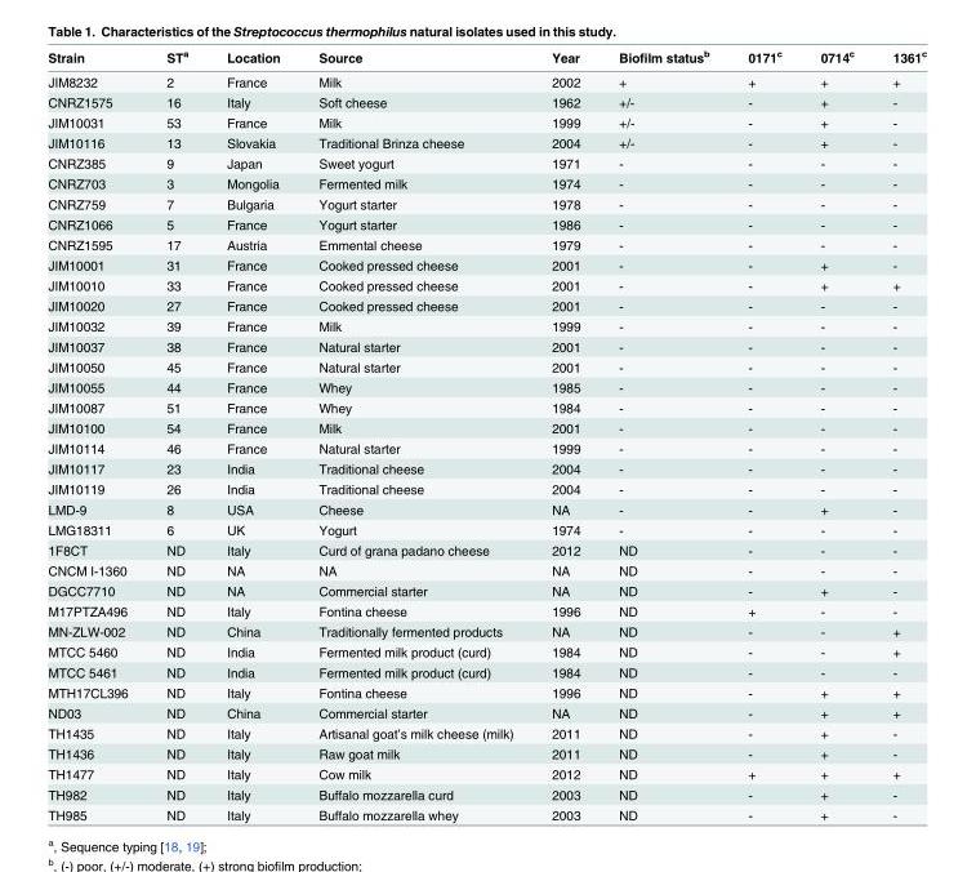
<table><thead><tr><td>Strain</td><td>ST<sup>a</sup></td><td>Location</td><td>Source</td><td>Year</td><td>Biofilm status<sup>b</sup></td><td>0171<sup>c</sup></td><td>0714<sup>c</sup></td><td>1361<sup>c</sup></td></tr></thead><tbody><tr><td>JIM8232</td><td>2</td><td>France</td><td>Milk</td><td>2002</td><td>+</td><td>+</td><td>+</td><td>+</td></tr><tr><td>CNRZ1575</td><td>16</td><td>Italy</td><td>Soft cheese</td><td>1962</td><td>+/-</td><td>-</td><td>+</td><td>-</td></tr><tr><td>JIM10031</td><td>53</td><td>France</td><td>Milk</td><td>1999</td><td>+/-</td><td>-</td><td>+</td><td>-</td></tr><tr><td>JIM10116</td><td>13</td><td>Slovakia</td><td>Traditional Brinza cheese</td><td>2004</td><td>+/-</td><td>-</td><td>+</td><td>-</td></tr><tr><td>CNRZ385</td><td>9</td><td>Japan</td><td>Sweet yogurt</td><td>1971</td><td>-</td><td>-</td><td>-</td><td>-</td></tr><tr><td>CNRZ703</td><td>3</td><td>Mongolia</td><td>Fermented milk</td><td>1974</td><td>-</td><td>-</td><td>-</td><td>-</td></tr><tr><td>CNRZ759</td><td>7</td><td>Bulgaria</td><td>Yogurt starter</td><td>1978</td><td>-</td><td>-</td><td>-</td><td>-</td></tr><tr><td>CNRZ1066</td><td>5</td><td>France</td><td>Yogurt starter</td><td>1986</td><td>-</td><td>-</td><td>-</td><td>-</td></tr><tr><td>CNRZ1595</td><td>17</td><td>Austria</td><td>Emmental cheese</td><td>1979</td><td>-</td><td>-</td><td>-</td><td>-</td></tr><tr><td>JIM10001</td><td>31</td><td>France</td><td>Cooked pressed cheese</td><td>2001</td><td>-</td><td>-</td><td>+</td><td>-</td></tr><tr><td>JIM10010</td><td>33</td><td>France</td><td>Cooked pressed cheese</td><td>2001</td><td>-</td><td>-</td><td>+</td><td>+</td></tr><tr><td>JIM10020</td><td>27</td><td>France</td><td>Cooked pressed cheese</td><td>2001</td><td>-</td><td>-</td><td>-</td><td>-</td></tr><tr><td>JIM10032</td><td>39</td><td>France</td><td>Milk</td><td>1999</td><td>-</td><td>-</td><td>-</td><td>-</td></tr><tr><td>JIM10037</td><td>38</td><td>France</td><td>Natural starter</td><td>2001</td><td>-</td><td>-</td><td>-</td><td>-</td></tr><tr><td>JIM10050</td><td>45</td><td>France</td><td>Natural starter</td><td>2001</td><td>-</td><td>-</td><td>-</td><td>-</td></tr><tr><td>JIM10055</td><td>44</td><td>France</td><td>Whey</td><td>1985</td><td>-</td><td>-</td><td>-</td><td>-</td></tr><tr><td>JIM10087</td><td>51</td><td>France</td><td>Whey</td><td>1984</td><td>-</td><td>-</td><td>-</td><td>-</td></tr><tr><td>JIM10100</td><td>54</td><td>France</td><td>Milk</td><td>2001</td><td>-</td><td>-</td><td>-</td><td>-</td></tr><tr><td>JIM10114</td><td>46</td><td>France</td><td>Natural starter</td><td>1999</td><td>-</td><td>-</td><td>-</td><td>-</td></tr><tr><td>JIM10117</td><td>23</td><td>India</td><td>Traditional cheese</td><td>2004</td><td>-</td><td>-</td><td>-</td><td>-</td></tr><tr><td>JIM10119</td><td>26</td><td>India</td><td>Traditional cheese</td><td>2004</td><td>-</td><td>-</td><td>-</td><td>-</td></tr><tr><td>LMD-9</td><td>8</td><td>USA</td><td>Cheese</td><td>NA</td><td>-</td><td>-</td><td>+</td><td>-</td></tr><tr><td>LMG18311</td><td>6</td><td>UK</td><td>Yogurt</td><td>1974</td><td>-</td><td>-</td><td>-</td><td>-</td></tr><tr><td>1F8CT</td><td>ND</td><td>Italy</td><td>Curd of grana padano cheese</td><td>2012</td><td>ND</td><td>-</td><td>-</td><td>-</td></tr><tr><td>CNCM I-1360</td><td>ND</td><td>NA</td><td>NA</td><td>NA</td><td>ND</td><td>-</td><td>-</td><td>-</td></tr><tr><td>DGCC7710</td><td>ND</td><td>NA</td><td>Commercial starter</td><td>NA</td><td>ND</td><td>-</td><td>+</td><td>-</td></tr><tr><td>M17PTZA496</td><td>ND</td><td>Italy</td><td>Fontina cheese</td><td>1996</td><td>ND</td><td>+</td><td>-</td><td>-</td></tr><tr><td>MN-ZLW-002</td><td>ND</td><td>China</td><td>Traditionally fermented products</td><td>NA</td><td>ND</td><td>-</td><td>-</td><td>+</td></tr><tr><td>MTCC 5460</td><td>ND</td><td>India</td><td>Fermented milk product (curd)</td><td>1984</td><td>ND</td><td>-</td><td>-</td><td>+</td></tr><tr><td>MTCC 5461</td><td>ND</td><td>India</td><td>Fermented milk product (curd)</td><td>1984</td><td>ND</td><td>-</td><td>-</td><td>-</td></tr><tr><td>MTH17CL396</td><td>ND</td><td>Italy</td><td>Fontina cheese</td><td>1996</td><td>ND</td><td>-</td><td>+</td><td>+</td></tr><tr><td>ND03</td><td>ND</td><td>China</td><td>Commercial starter</td><td>NA</td><td>ND</td><td>-</td><td>+</td><td>+</td></tr><tr><td>TH1435</td><td>ND</td><td>Italy</td><td>Artisanal goat’s milk cheese (milk)</td><td>2011</td><td>ND</td><td>-</td><td>+</td><td>-</td></tr><tr><td>TH1436</td><td>ND</td><td>Italy</td><td>Raw goat milk</td><td>2011</td><td>ND</td><td>-</td><td>+</td><td>-</td></tr><tr><td>TH1477</td><td>ND</td><td>Italy</td><td>Cow milk</td><td>2012</td><td>ND</td><td>+</td><td>+</td><td>+</td></tr><tr><td>TH982</td><td>ND</td><td>Italy</td><td>Buffalo mozzarella curd</td><td>2003</td><td>ND</td><td>-</td><td>+</td><td>-</td></tr><tr><td>TH985</td><td>ND</td><td>Italy</td><td>Buffalo mozzarella whey</td><td>2003</td><td>ND</td><td>-</td><td>+</td><td>-</td></tr></tbody></table>